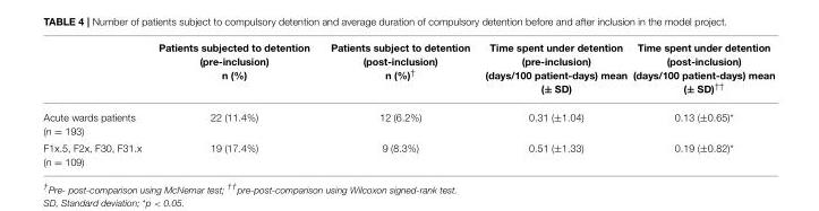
<table><thead><tr><td></td><td>Patients subjected to detention (pre-inclusion) n (%)</td><td>Patients subject to detention (post-inclusion) n (%)<sup>†</sup></td><td>Time spent under detention (pre-inclusion) (days/100 patient-days) mean (± SD)</td><td>Time spent under detention (post-inclusion) (days/100 patient-days) mean (± SD)<sup>††</sup></td></tr></thead><tbody><tr><td>Acute wards patients (n = 193)</td><td>22 (11.4%)</td><td>12 (6.2%)</td><td>0.31 (±1.04)</td><td>0.13 (±0.65)*</td></tr><tr><td>F1x.5, F2x, F30, F31.x (n = 109)</td><td>19 (17.4%)</td><td>9 (8.3%)</td><td>0.51 (±1.33)</td><td>0.19 (±0.82)*</td></tr></tbody></table>